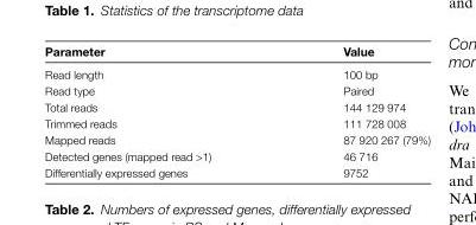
<table><thead><tr><td>Parameter</td><td>Value</td></tr></thead><tbody><tr><td>Read length</td><td>100 bp</td></tr><tr><td>Read type</td><td>Paired</td></tr><tr><td>Total reads</td><td>144 129 974</td></tr><tr><td>Trimmed reads</td><td>111 728 008</td></tr><tr><td>Mapped reads</td><td>87 920 267 (79%)</td></tr><tr><td>Detected genes (mapped read &gt;1)</td><td>46 716</td></tr><tr><td>Differentially expressed genes</td><td>9752</td></tr></tbody></table>